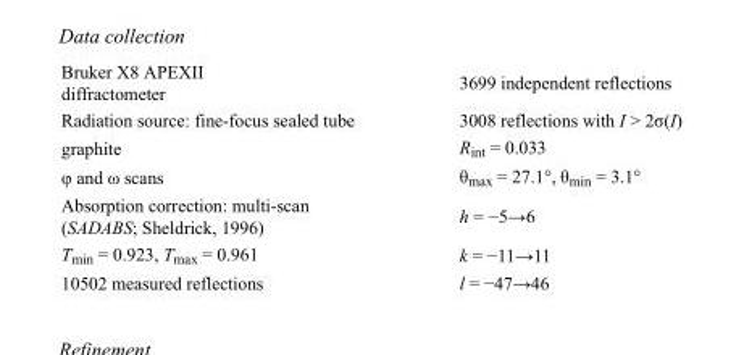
<table><tbody><tr><td>Bruker X8 APEXII diffractometer</td><td>3699 independent reflections</td></tr><tr><td>Radiation source: fine-focus sealed tube</td><td>3008 reflections with I &gt; 2σ(I)</td></tr><tr><td>graphite</td><td>R<sub>int</sub> = 0.033</td></tr><tr><td>φ and ω scans</td><td>θ<sub>max</sub> = 27.1°, θ<sub>min</sub> = 3.1°</td></tr><tr><td>Absorption correction: multi-scan (SADABS; Sheldrick, 1996)</td><td>h = −5→6</td></tr><tr><td>T<sub>min</sub> = 0.923, T<sub>max</sub> = 0.961</td><td>k = −11→11</td></tr><tr><td>10502 measured reflections</td><td>l = −47→46</td></tr></tbody></table>